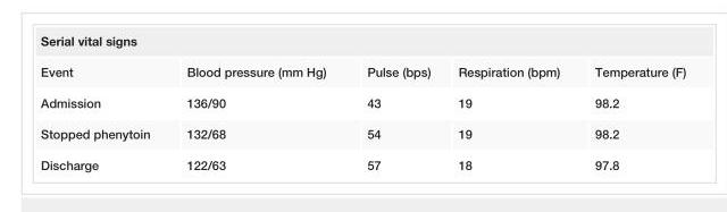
<table><tbody><tr><td colspan="5">Serial vital signs</td></tr><tr><td>Event</td><td>Blood pressure (mm Hg)</td><td>Pulse (bps)</td><td>Respiration (bpm)</td><td>Temperature (F)</td></tr><tr><td>Admission</td><td>136/90</td><td>43</td><td>19</td><td>98.2</td></tr><tr><td>Stopped phenytoin</td><td>132/68</td><td>54</td><td>19</td><td>98.2</td></tr><tr><td>Discharge</td><td>122/63</td><td>57</td><td>18</td><td>97.8</td></tr></tbody></table>